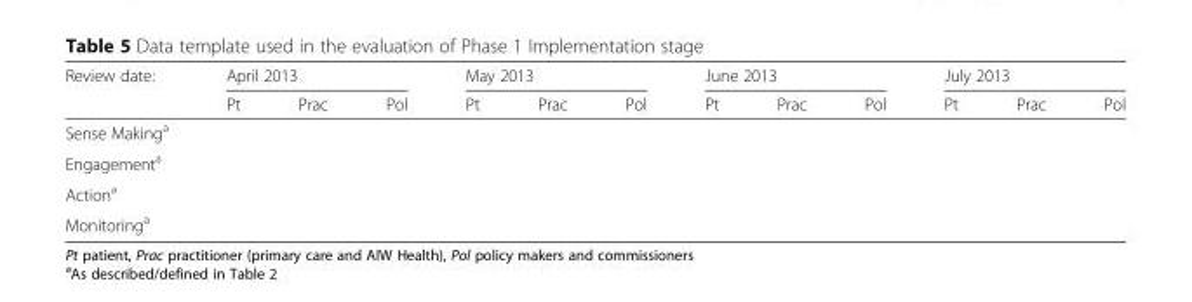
<table><thead><tr><td rowspan="2">Review date:</td><td colspan="3">April 2013</td><td colspan="3">May 2013</td><td colspan="3">June 2013</td><td colspan="3">July 2013</td></tr><tr><td>Pt</td><td>Prac</td><td>Pol</td><td>Pt</td><td>Prac</td><td>Pol</td><td>Pt</td><td>Prac</td><td>Pol</td><td>Pt</td><td>Prac</td><td>Pol</td></tr></thead><tbody><tr><td colspan="13">Sense Making<sup>a</sup></td></tr><tr><td colspan="13">Engagement<sup>a</sup></td></tr><tr><td colspan="13">Action<sup>a</sup></td></tr><tr><td>Monitoring<sup>a</sup></td><td></td><td></td><td></td><td></td><td></td><td></td><td></td><td></td><td></td><td></td><td></td><td></td></tr></tbody></table>